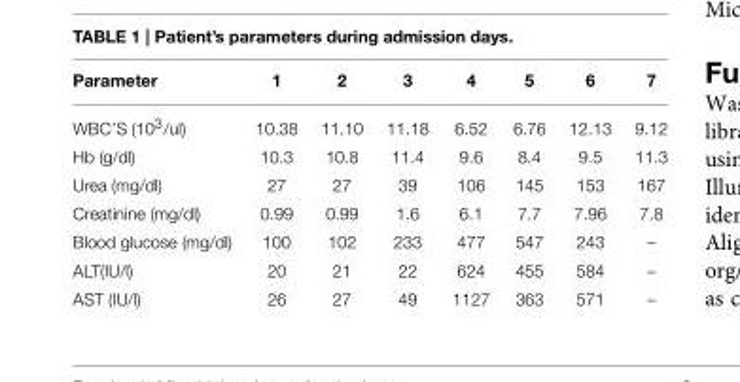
<table><thead><tr><td>Parameter</td><td>1</td><td>2</td><td>3</td><td>4</td><td>5</td><td>6</td><td>7</td></tr></thead><tbody><tr><td>WBC’S (10<sup>3</sup>/ul)</td><td>10.38</td><td>11.10</td><td>11.18</td><td>6.52</td><td>6.76</td><td>12.13</td><td>9.12</td></tr><tr><td>Hb (g/dl)</td><td>10.3</td><td>10.8</td><td>11.4</td><td>9.6</td><td>8.4</td><td>9.5</td><td>11.3</td></tr><tr><td>Urea (mg/dl)</td><td>27</td><td>27</td><td>39</td><td>106</td><td>145</td><td>153</td><td>167</td></tr><tr><td>Creatinine (mg/dl)</td><td>0.99</td><td>0.99</td><td>1.6</td><td>6.1</td><td>7.7</td><td>7.96</td><td>7.8</td></tr><tr><td>Blood glucose (mg/dl)</td><td>100</td><td>102</td><td>233</td><td>477</td><td>547</td><td>243</td><td>–</td></tr><tr><td>ALT(IU/l)</td><td>20</td><td>21</td><td>22</td><td>624</td><td>455</td><td>584</td><td>–</td></tr><tr><td>AST (IU/l)</td><td>26</td><td>27</td><td>49</td><td>1127</td><td>363</td><td>571</td><td>–</td></tr></tbody></table>